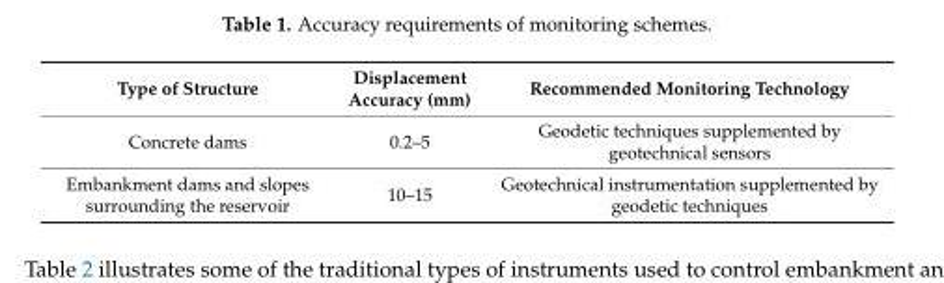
<table><thead><tr><td>Type of Structure</td><td>Displacement Accuracy (mm)</td><td>Recommended Monitoring Technology</td></tr></thead><tbody><tr><td>Concrete dams</td><td>0.2–5</td><td>Geodetic techniques supplemented by geotechnical sensors</td></tr><tr><td>Embankment dams and slopes surrounding the reservoir</td><td>10–15</td><td>Geotechnical instrumentation supplemented by geodetic techniques</td></tr></tbody></table>